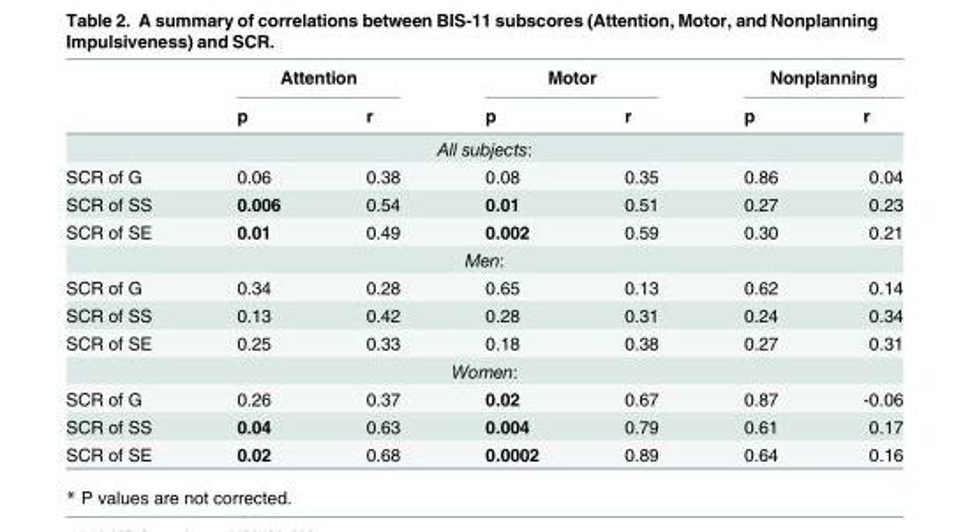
<table><thead><tr><td rowspan="2"></td><td colspan="2">Attention</td><td colspan="2">Motor</td><td colspan="2">Nonplanning</td></tr><tr><td>p</td><td>r</td><td>p</td><td>r</td><td>p</td><td>r</td></tr></thead><tbody><tr><td colspan="7">All subjects:</td></tr><tr><td>SCR of G</td><td>0.06</td><td>0.38</td><td>0.08</td><td>0.35</td><td>0.86</td><td>0.04</td></tr><tr><td>SCR of SS</td><td>0.006</td><td>0.54</td><td>0.01</td><td>0.51</td><td>0.27</td><td>0.23</td></tr><tr><td>SCR of SE</td><td>0.01</td><td>0.49</td><td>0.002</td><td>0.59</td><td>0.30</td><td>0.21</td></tr><tr><td colspan="7">Men:</td></tr><tr><td>SCR of G</td><td>0.34</td><td>0.28</td><td>0.65</td><td>0.13</td><td>0.62</td><td>0.14</td></tr><tr><td>SCR of SS</td><td>0.13</td><td>0.42</td><td>0.28</td><td>0.31</td><td>0.24</td><td>0.34</td></tr><tr><td>SCR of SE</td><td>0.25</td><td>0.33</td><td>0.18</td><td>0.38</td><td>0.27</td><td>0.31</td></tr><tr><td colspan="7">Women:</td></tr><tr><td>SCR of G</td><td>0.26</td><td>0.37</td><td>0.02</td><td>0.67</td><td>0.87</td><td>-0.06</td></tr><tr><td>SCR of SS</td><td>0.04</td><td>0.63</td><td>0.004</td><td>0.79</td><td>0.61</td><td>0.17</td></tr><tr><td>SCR of SE</td><td>0.02</td><td>0.68</td><td>0.0002</td><td>0.89</td><td>0.64</td><td>0.16</td></tr></tbody></table>